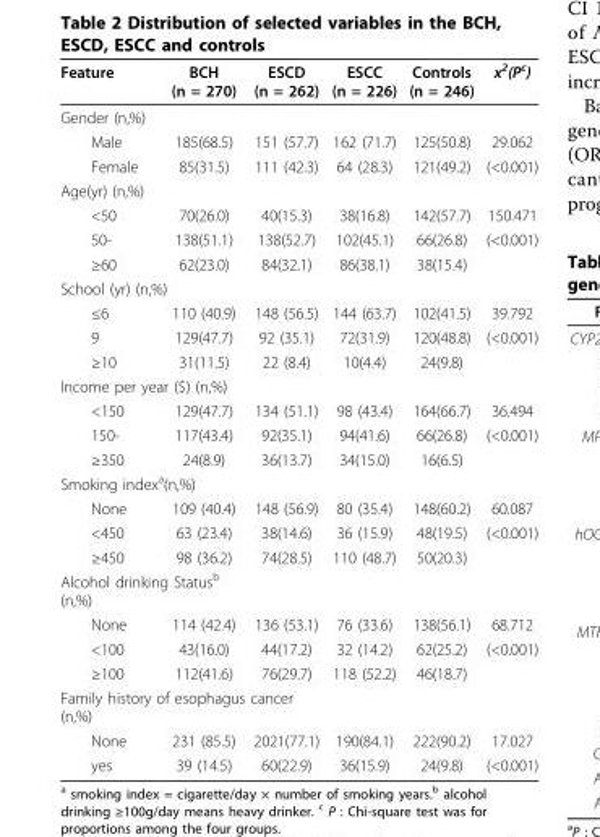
<table><thead><tr><td>Feature</td><td>BCH (n = 270)</td><td>ESCD (n = 262)</td><td>ESCC (n = 226)</td><td>Controls (n = 246)</td><td>x<sup>2</sup>(P<sup>c</sup>)</td></tr></thead><tbody><tr><td colspan="6">Gender (n,%)</td></tr><tr><td>Male</td><td>185(68.5)</td><td>151 (57.7)</td><td>162 (71.7)</td><td>125(50.8)</td><td>29.062</td></tr><tr><td>Female</td><td>85(31.5)</td><td>111 (42.3)</td><td>64 (28.3)</td><td>121(49.2)</td><td>(&lt;0.001)</td></tr><tr><td colspan="6">Age(yr) (n,%)</td></tr><tr><td>&lt;50</td><td>70(26.0)</td><td>40(15.3)</td><td>38(16.8)</td><td>142(57.7)</td><td>150.471</td></tr><tr><td>50-</td><td>138(51.1)</td><td>138(52.7)</td><td>102(45.1)</td><td>66(26.8)</td><td>(&lt;0.001)</td></tr><tr><td>≥60</td><td>62(23.0)</td><td>84(32.1)</td><td>86(38.1)</td><td>38(15.4)</td><td></td></tr><tr><td colspan="6">School (yr) (n,%)</td></tr><tr><td>≤6</td><td>110 (40.9)</td><td>148 (56.5)</td><td>144 (63.7)</td><td>102(41.5)</td><td>39.792</td></tr><tr><td>9</td><td>129(47.7)</td><td>92 (35.1)</td><td>72(31.9)</td><td>120(48.8)</td><td>(&lt;0.001)</td></tr><tr><td>≥10</td><td>31(11.5)</td><td>22 (8.4)</td><td>10(4.4)</td><td>24(9.8)</td><td></td></tr><tr><td colspan="6">Income per year ($) (n,%)</td></tr><tr><td>&lt;150</td><td>129(47.7)</td><td>134 (51.1)</td><td>98 (43.4)</td><td>164(66.7)</td><td>36.494</td></tr><tr><td>150-</td><td>117(43.4)</td><td>92(35.1)</td><td>94(41.6)</td><td>66(26.8)</td><td>(&lt;0.001)</td></tr><tr><td>≥350</td><td>24(8.9)</td><td>36(13.7)</td><td>34(15.0)</td><td>16(6.5)</td><td></td></tr><tr><td colspan="6">Smoking index<sup>a</sup>(n,%)</td></tr><tr><td>None</td><td>109 (40.4)</td><td>148 (56.9)</td><td>80 (35.4)</td><td>148(60.2)</td><td>60.087</td></tr><tr><td>&lt;450</td><td>63 (23.4)</td><td>38(14.6)</td><td>36 (15.9)</td><td>48(19.5)</td><td>(&lt;0.001)</td></tr><tr><td>≥450</td><td>98 (36.2)</td><td>74(28.5)</td><td>110 (48.7)</td><td>50(20.3)</td><td></td></tr><tr><td colspan="6">Alcohol drinking Status<sup>b</sup> (n,%)</td></tr><tr><td>None</td><td>114 (42.4)</td><td>136 (53.1)</td><td>76 (33.6)</td><td>138(56.1)</td><td>68.712</td></tr><tr><td>&lt;100</td><td>43(16.0)</td><td>44(17.2)</td><td>32 (14.2)</td><td>62(25.2)</td><td>(&lt;0.001)</td></tr><tr><td>≥100</td><td>112(41.6)</td><td>76(29.7)</td><td>118 (52.2)</td><td>46(18.7)</td><td></td></tr><tr><td colspan="6">Family history of esophagus cancer (n,%)</td></tr><tr><td>None</td><td>231 (85.5)</td><td>2021(77.1)</td><td>190(84.1)</td><td>222(90.2)</td><td>17.027</td></tr><tr><td>yes</td><td>39 (14.5)</td><td>60(22.9)</td><td>36(15.9)</td><td>24(9.8)</td><td>(&lt;0.001)</td></tr></tbody></table>